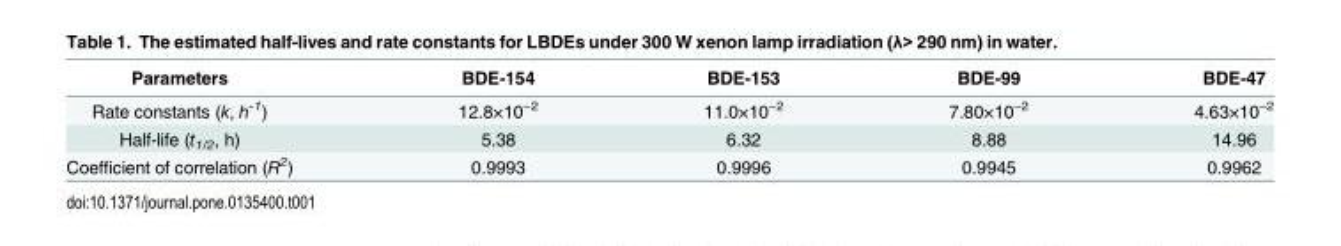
<table><thead><tr><td>Parameters</td><td>BDE-154</td><td>BDE-153</td><td>BDE-99</td><td>BDE-47</td></tr></thead><tbody><tr><td>Rate constants (k, h<sup>-1</sup>)</td><td>12.8×10<sup>−2</sup></td><td>11.0×10<sup>−2</sup></td><td>7.80×10<sup>−2</sup></td><td>4.63×10<sup>−2</sup></td></tr><tr><td>Half-life (t<sub>1/2</sub>, h)</td><td>5.38</td><td>6.32</td><td>8.88</td><td>14.96</td></tr><tr><td>Coefficient of correlation (R<sup>2</sup>)</td><td>0.9993</td><td>0.9996</td><td>0.9945</td><td>0.9962</td></tr></tbody></table>